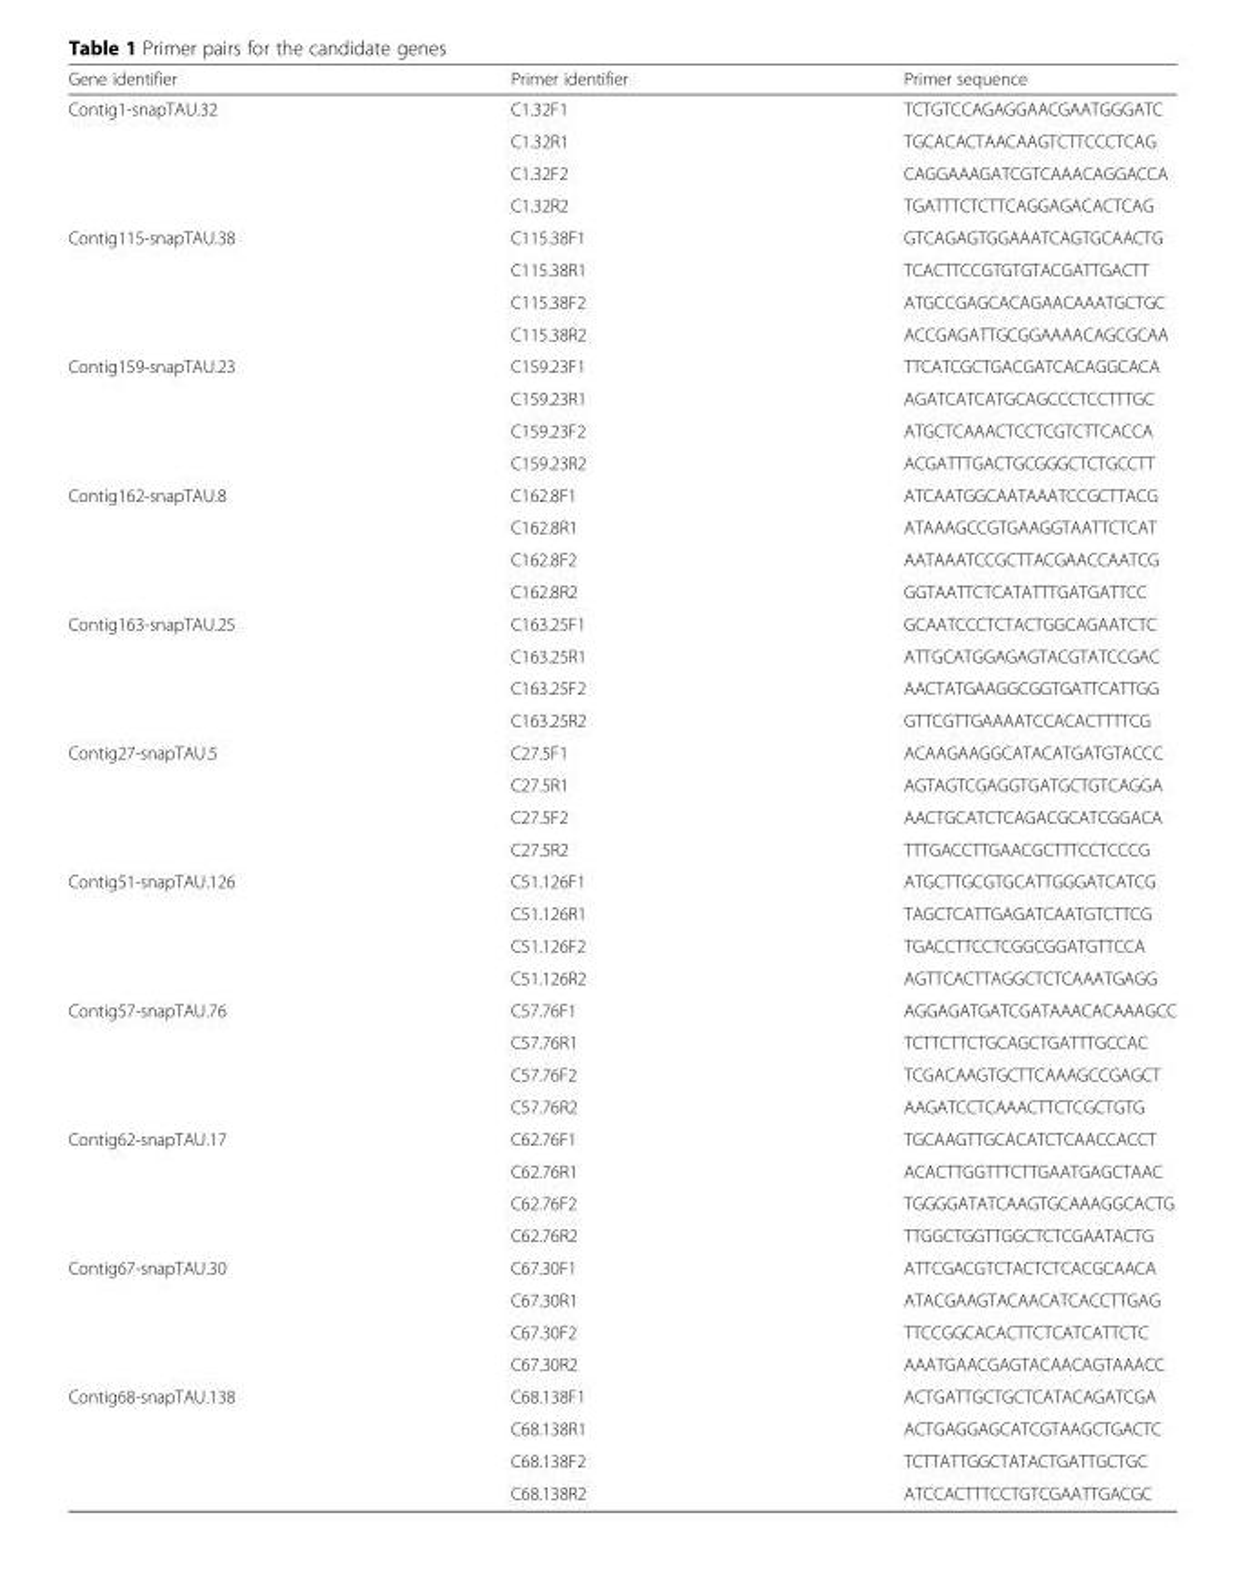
<table><thead><tr><td>Gene identifier</td><td>Primer identifier</td><td>Primer sequence</td></tr></thead><tbody><tr><td rowspan="4">Contig1-snapTAU.32</td><td>C1.32F1</td><td>TCTGTCCAGAGGAACGAATGGGATC</td></tr><tr><td>C1.32R1</td><td>TGCACACTAACAAGTCTTCCCTCAG</td></tr><tr><td>C1.32F2</td><td>CAGGAAAGATCGTCAAACAGGACCA</td></tr><tr><td>C1.32R2</td><td>TGATTTCTCTTCAGGAGACACTCAG</td></tr><tr><td rowspan="4">Contig115-snapTAU.38</td><td>C115.38F1</td><td>GTCAGAGTGGAAATCAGTGCAACTG</td></tr><tr><td>C115.38R1</td><td>TCACTTCCGTGTGTACGATTGACTT</td></tr><tr><td>C115.38F2</td><td>ATGCCGAGCACAGAACAAATGCTGC</td></tr><tr><td>C115.38R2</td><td>ACCGAGATTGCGGAAAACAGCGCAA</td></tr><tr><td rowspan="4">Contig159-snapTAU.23</td><td>C159.23F1</td><td>TTCATCGCTGACGATCACAGGCACA</td></tr><tr><td>C159.23R1</td><td>AGATCATCATGCAGCCCTCCTTTGC</td></tr><tr><td>C159.23F2</td><td>ATGCTCAAACTCCTCGTCTTCACCA</td></tr><tr><td>C159.23R2</td><td>ACGATTTGACTGCGGGCTCTGCCTT</td></tr><tr><td rowspan="4">Contig162-snapTAU.8</td><td>C162.8F1</td><td>ATCAATGGCAATAAATCCGCTTACG</td></tr><tr><td>C162.8R1</td><td>ATAAAGCCGTGAAGGTAATTCTCAT</td></tr><tr><td>C162.8F2</td><td>AATAAATCCGCTTACGAACCAATCG</td></tr><tr><td>C162.8R2</td><td>GGTAATTCTCATATTTGATGATTCC</td></tr><tr><td rowspan="4">Contig163-snapTAU.25</td><td>C163.25F1</td><td>GCAATCCCTCTACTGGCAGAATCTC</td></tr><tr><td>C163.25R1</td><td>ATTGCATGGAGAGTACGTATCCGAC</td></tr><tr><td>C163.25F2</td><td>AACTATGAAGGCGGTGATTCATTGG</td></tr><tr><td>C163.25R2</td><td>GTTCGTTGAAAATCCACACTTTTCG</td></tr><tr><td rowspan="4">Contig27-snapTAU.5</td><td>C27.5F1</td><td>ACAAGAAGGCATACATGATGTACCC</td></tr><tr><td>C27.5R1</td><td>AGTAGTCGAGGTGATGCTGTCAGGA</td></tr><tr><td>C27.5F2</td><td>AACTGCATCTCAGACGCATCGGACA</td></tr><tr><td>C27.5R2</td><td>TTTGACCTTGAACGCTTTCCTCCCG</td></tr><tr><td rowspan="4">Contig51-snapTAU.126</td><td>C51.126F1</td><td>ATGCTTGCGTGCATTGGGATCATCG</td></tr><tr><td>C51.126R1</td><td>TAGCTCATTGAGATCAATGTCTTCG</td></tr><tr><td>C51.126F2</td><td>TGACCTTCCTCGGCGGATGTTCCA</td></tr><tr><td>C51.126R2</td><td>AGTTCACTTAGGCTCTCAAATGAGG</td></tr><tr><td rowspan="4">Contig57-snapTAU.76</td><td>C57.76F1</td><td>AGGAGATGATCGATAAACACAAAGCC</td></tr><tr><td>C57.76R1</td><td>TCTTCTTCTGCAGCTGATTTGCCAC</td></tr><tr><td>C57.76F2</td><td>TCGACAAGTGCTTCAAAGCCGAGCT</td></tr><tr><td>C57.76R2</td><td>AAGATCCTCAAACTTCTCGCTGTG</td></tr><tr><td rowspan="4">Contig62-snapTAU.17</td><td>C62.76F1</td><td>TGCAAGTTGCACATCTCAACCACCT</td></tr><tr><td>C62.76R1</td><td>ACACTTGGTTTCTTGAATGAGCTAAC</td></tr><tr><td>C62.76F2</td><td>TGGGGATATCAAGTGCAAAGGCACTG</td></tr><tr><td>C62.76R2</td><td>TTGGCTGGTTGGCTCTCGAATACTG</td></tr><tr><td rowspan="4">Contig67-snapTAU.30</td><td>C67.30F1</td><td>ATTCGACGTCTACTCTCACGCAACA</td></tr><tr><td>C67.30R1</td><td>ATACGAAGTACAACATCACCTTGAG</td></tr><tr><td>C67.30F2</td><td>TTCCGGCACACTTCTCATCATTCTC</td></tr><tr><td>C67.30R2</td><td>AAATGAACGAGTACAACAGTAAACC</td></tr><tr><td rowspan="4">Contig68-snapTAU.138</td><td>C68.138F1</td><td>ACTGATTGCTGCTCATACAGATCGA</td></tr><tr><td>C68.138R1</td><td>ACTGAGGAGCATCGTAAGCTGACTC</td></tr><tr><td>C68.138F2</td><td>TCTTATTGGCTATACTGATTGCTGC</td></tr><tr><td>C68.138R2</td><td>ATCCACTTTCCTGTCGAATTGACGC</td></tr></tbody></table>